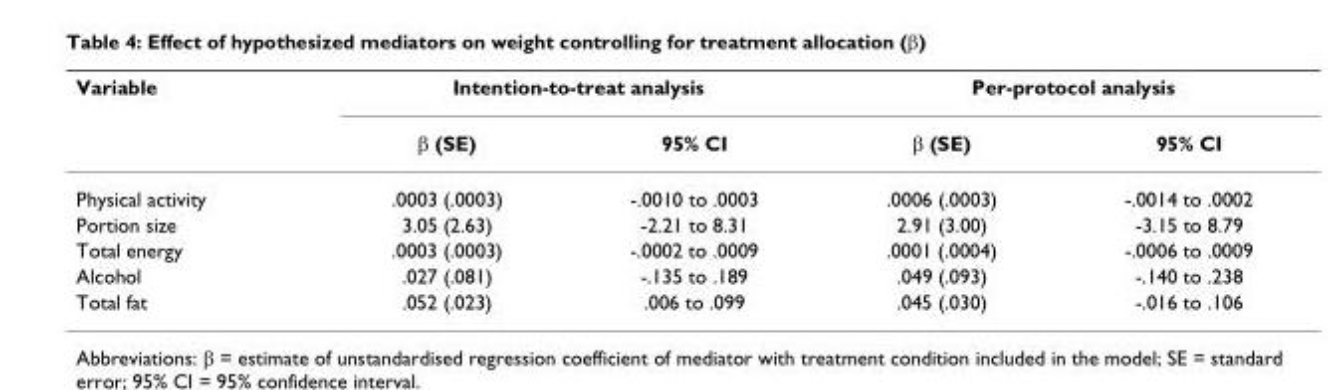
<table><thead><tr><td rowspan="2">Variable</td><td colspan="2">Intention-to-treat analysis</td><td colspan="2">Per-protocol analysis</td></tr><tr><td>β (SE)</td><td>95% CI</td><td>β (SE)</td><td>95% CI</td></tr></thead><tbody><tr><td>Physical activity</td><td>.0003 (.0003)</td><td>-.0010 to .0003</td><td>.0006 (.0003)</td><td>-.0014 to .0002</td></tr><tr><td>Portion size</td><td>3.05 (2.63)</td><td>-2.21 to 8.31</td><td>2.91 (3.00)</td><td>-3.15 to 8.79</td></tr><tr><td>Total energy</td><td>.0003 (.0003)</td><td>-.0002 to .0009</td><td>.0001 (.0004)</td><td>-.0006 to .0009</td></tr><tr><td>Alcohol</td><td>.027 (.081)</td><td>-.135 to .189</td><td>.049 (.093)</td><td>-.140 to .238</td></tr><tr><td>Total fat</td><td>.052 (.023)</td><td>.006 to .099</td><td>.045 (.030)</td><td>-.016 to .106</td></tr></tbody></table>